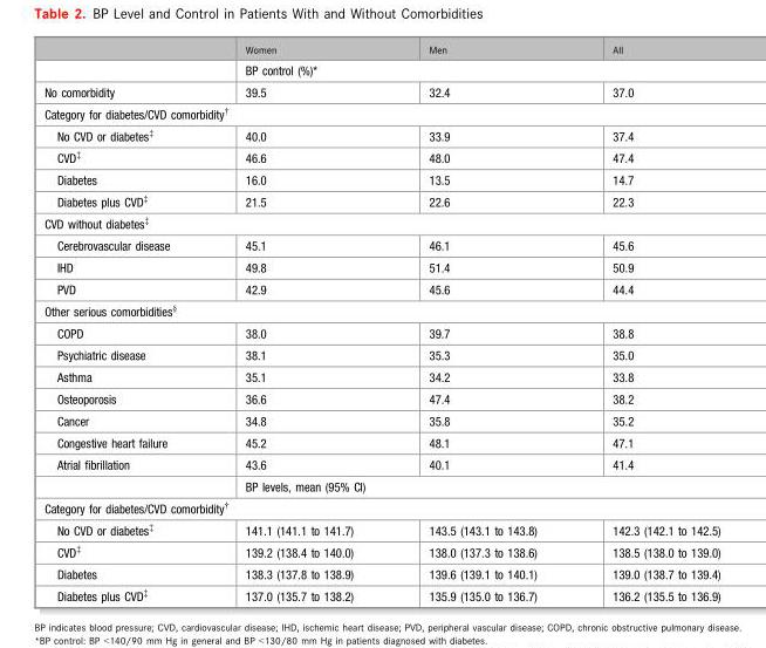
<table><thead><tr><td></td><td>Women</td><td>Men</td><td>All</td></tr></thead><tbody><tr><td></td><td colspan="3">BP control (%)*</td></tr><tr><td>No comorbidity</td><td>39.5</td><td>32.4</td><td>37.0</td></tr><tr><td colspan="4">Category for diabetes/CVD comorbidity†</td></tr><tr><td>No CVD or diabetes‡</td><td>40.0</td><td>33.9</td><td>37.4</td></tr><tr><td>CVD‡</td><td>46.6</td><td>48.0</td><td>47.4</td></tr><tr><td>Diabetes</td><td>16.0</td><td>13.5</td><td>14.7</td></tr><tr><td>Diabetes plus CVD‡</td><td>21.5</td><td>22.6</td><td>22.3</td></tr><tr><td colspan="4">CVD without diabetes‡</td></tr><tr><td>Cerebrovascular disease</td><td>45.1</td><td>46.1</td><td>45.6</td></tr><tr><td>IHD</td><td>49.8</td><td>51.4</td><td>50.9</td></tr><tr><td>PVD</td><td>42.9</td><td>45.6</td><td>44.4</td></tr><tr><td colspan="4">Other serious comorbidities§</td></tr><tr><td>COPD</td><td>38.0</td><td>39.7</td><td>38.8</td></tr><tr><td>Psychiatric disease</td><td>38.1</td><td>35.3</td><td>35.0</td></tr><tr><td>Asthma</td><td>35.1</td><td>34.2</td><td>33.8</td></tr><tr><td>Osteoporosis</td><td>36.6</td><td>47.4</td><td>38.2</td></tr><tr><td>Cancer</td><td>34.8</td><td>35.8</td><td>35.2</td></tr><tr><td>Congestive heart failure</td><td>45.2</td><td>48.1</td><td>47.1</td></tr><tr><td rowspan="2">Atrial fibrillation</td><td>43.6</td><td>40.1</td><td>41.4</td></tr><tr><td colspan="3">BP levels, mean (95% CI)</td></tr><tr><td colspan="4">Category for diabetes/CVD comorbidity†</td></tr><tr><td>No CVD or diabetes‡</td><td>141.1 (141.1 to 141.7)</td><td>143.5 (143.1 to 143.8)</td><td>142.3 (142.1 to 142.5)</td></tr><tr><td>CVD‡</td><td>139.2 (138.4 to 140.0)</td><td>138.0 (137.3 to 138.6)</td><td>138.5 (138.0 to 139.0)</td></tr><tr><td>Diabetes</td><td>138.3 (137.8 to 138.9)</td><td>139.6 (139.1 to 140.1)</td><td>139.0 (138.7 to 139.4)</td></tr><tr><td>Diabetes plus CVD‡</td><td>137.0 (135.7 to 138.2)</td><td>135.9 (135.0 to 136.7)</td><td>136.2 (135.5 to 136.9)</td></tr></tbody></table>